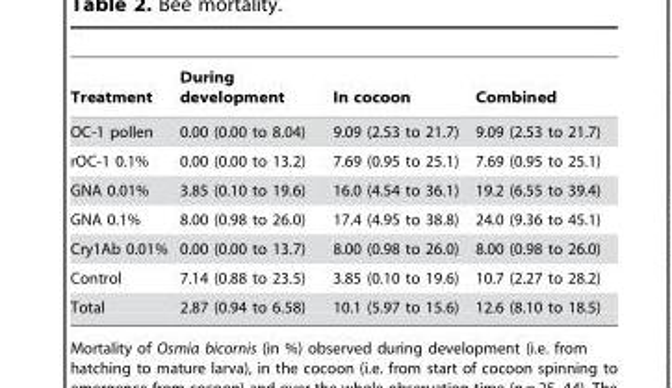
<table><thead><tr><td>Treatment</td><td>During development</td><td>In cocoon</td><td>Combined</td></tr></thead><tbody><tr><td>OC-1 pollen</td><td>0.00 (0.00 to 8.04)</td><td>9.09 (2.53 to 21.7)</td><td>9.09 (2.53 to 21.7)</td></tr><tr><td>rOC-1 0.1%</td><td>0.00 (0.00 to 13.2)</td><td>7.69 (0.95 to 25.1)</td><td>7.69 (0.95 to 25.1)</td></tr><tr><td>GNA 0.01%</td><td>3.85 (0.10 to 19.6)</td><td>16.0 (4.54 to 36.1)</td><td>19.2 (6.55 to 39.4)</td></tr><tr><td>GNA 0.1%</td><td>8.00 (0.98 to 26.0)</td><td>17.4 (4.95 to 38.8)</td><td>24.0 (9.36 to 45.1)</td></tr><tr><td>Cry1Ab 0.01%</td><td>0.00 (0.00 to 13.7)</td><td>8.00 (0.98 to 26.0)</td><td>8.00 (0.98 to 26.0)</td></tr><tr><td>Control</td><td>7.14 (0.88 to 23.5)</td><td>3.85 (0.10 to 19.6)</td><td>10.7 (2.27 to 28.2)</td></tr><tr><td>Total</td><td>2.87 (0.94 to 6.58)</td><td>10.1 (5.97 to 15.6)</td><td>12.6 (8.10 to 18.5)</td></tr></tbody></table>